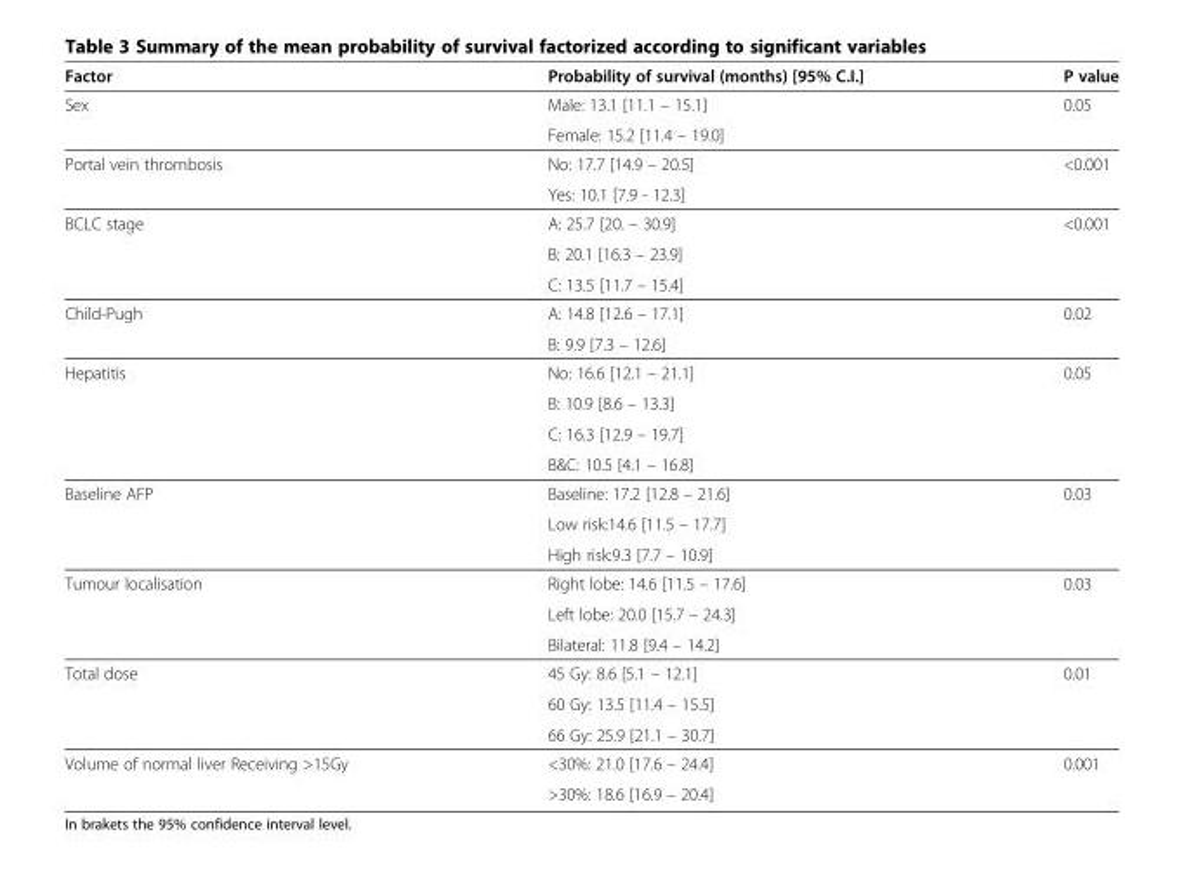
<table><thead><tr><td>Factor</td><td>Probability of survival (months) [95% C.I.]</td><td>P value</td></tr></thead><tbody><tr><td rowspan="2">Sex</td><td>Male: 13.1 [11.1 – 15.1]</td><td>0.05</td></tr><tr><td>Female: 15.2 [11.4 – 19.0]</td><td></td></tr><tr><td rowspan="2">Portal vein thrombosis</td><td>No: 17.7 [14.9 – 20.5]</td><td>&lt;0.001</td></tr><tr><td>Yes: 10.1 [7.9 - 12.3]</td><td></td></tr><tr><td rowspan="3">BCLC stage</td><td>A: 25.7 [20. – 30.9]</td><td>&lt;0.001</td></tr><tr><td>B: 20.1 [16.3 – 23.9]</td><td></td></tr><tr><td>C: 13.5 [11.7 – 15.4]</td><td></td></tr><tr><td rowspan="2">Child-Pugh</td><td>A: 14.8 [12.6 – 17.1]</td><td>0.02</td></tr><tr><td>B: 9.9 [7.3 – 12.6]</td><td></td></tr><tr><td rowspan="4">Hepatitis</td><td>No: 16.6 [12.1 – 21.1]</td><td>0.05</td></tr><tr><td>B: 10.9 [8.6 – 13.3]</td><td></td></tr><tr><td>C: 16.3 [12.9 – 19.7]</td><td></td></tr><tr><td>B&amp;C: 10.5 [4.1 – 16.8]</td><td></td></tr><tr><td rowspan="3">Baseline AFP</td><td>Baseline: 17.2 [12.8 – 21.6]</td><td>0.03</td></tr><tr><td>Low risk:14.6 [11.5 – 17.7]</td><td></td></tr><tr><td>High risk:9.3 [7.7 – 10.9]</td><td></td></tr><tr><td rowspan="3">Tumour localisation</td><td>Right lobe: 14.6 [11.5 – 17.6]</td><td>0.03</td></tr><tr><td>Left lobe: 20.0 [15.7 – 24.3]</td><td></td></tr><tr><td>Bilateral: 11.8 [9.4 – 14.2]</td><td></td></tr><tr><td rowspan="3">Total dose</td><td>45 Gy: 8.6 [5.1 – 12.1]</td><td>0.01</td></tr><tr><td>60 Gy: 13.5 [11.4 – 15.5]</td><td></td></tr><tr><td>66 Gy: 25.9 [21.1 – 30.7]</td><td></td></tr><tr><td rowspan="2">Volume of normal liver Receiving &gt;15Gy</td><td>&lt;30%: 21.0 [17.6 – 24.4]</td><td>0.001</td></tr><tr><td>&gt;30%: 18.6 [16.9 – 20.4]</td><td></td></tr></tbody></table>